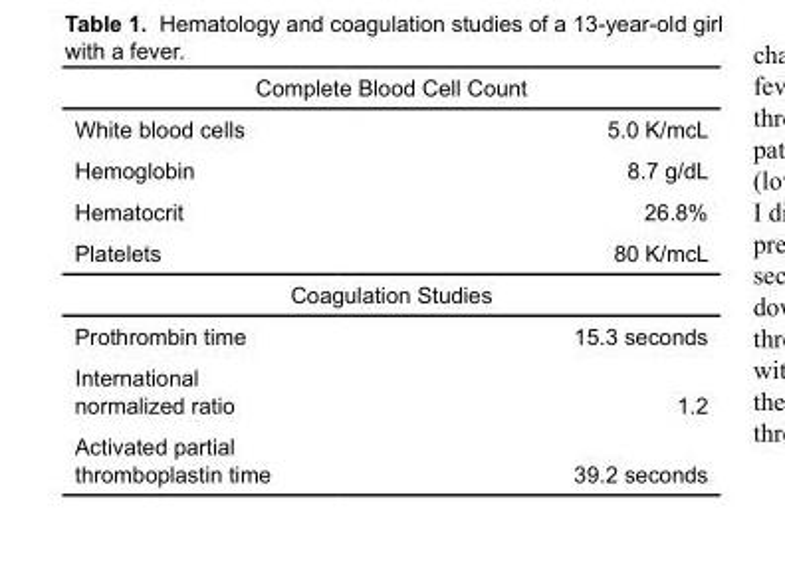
<table><thead><tr><td colspan="2">Complete Blood Cell Count</td></tr><tr><td>White blood cells</td><td>5.0 K/mcL</td></tr></thead><tbody><tr><td>Hemoglobin</td><td>8.7 g/dL</td></tr><tr><td>Hematocrit</td><td>26.8%</td></tr><tr><td>Platelets</td><td>80 K/mcL</td></tr><tr><td colspan="2">Coagulation Studies</td></tr><tr><td>Prothrombin time</td><td>15.3 seconds</td></tr><tr><td>International normalized ratio</td><td>1.2</td></tr><tr><td>Activated partial thromboplastin time</td><td>39.2 seconds</td></tr></tbody></table>